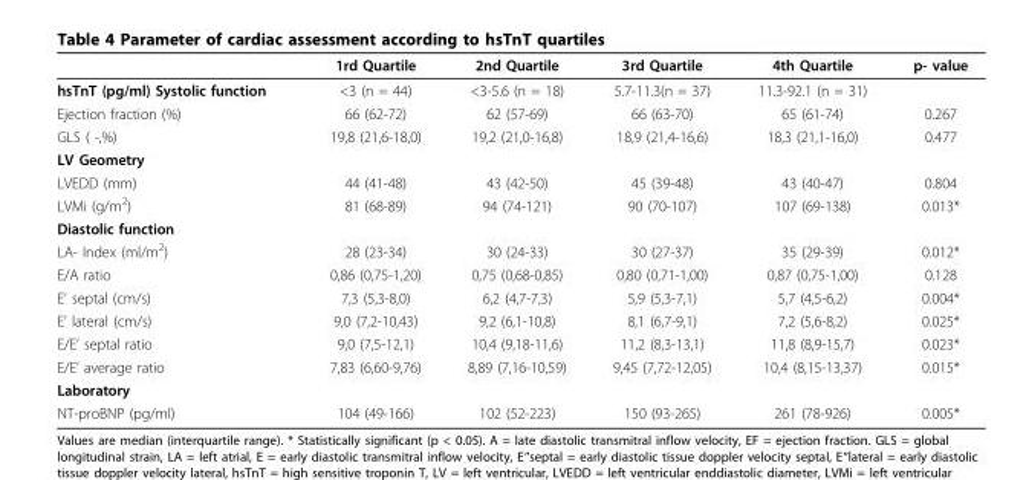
<table><thead><tr><td></td><td>1rd Quartile</td><td>2nd Quartile</td><td>3rd Quartile</td><td>4th Quartile</td><td>p- value</td></tr></thead><tbody><tr><td>hsTnT (pg/ml) Systolic function</td><td>&lt;3 (n = 44)</td><td>&lt;3-5.6 (n = 18)</td><td>5.7-11.3(n = 37)</td><td>11.3-92.1 (n = 31)</td><td></td></tr><tr><td>Ejection fraction (%)</td><td>66 (62-72)</td><td>62 (57-69)</td><td>66 (63-70)</td><td>65 (61-74)</td><td>0.267</td></tr><tr><td>GLS ( -,%)</td><td>19,8 (21,6-18,0)</td><td>19,2 (21,0-16,8)</td><td>18,9 (21,4-16,6)</td><td>18,3 (21,1-16,0)</td><td>0.477</td></tr><tr><td colspan="6">LV Geometry</td></tr><tr><td>LVEDD (mm)</td><td>44 (41-48)</td><td>43 (42-50)</td><td>45 (39-48)</td><td>43 (40-47)</td><td>0.804</td></tr><tr><td>LVMi (g/m<sup>2</sup>)</td><td>81 (68-89)</td><td>94 (74-121)</td><td>90 (70-107)</td><td>107 (69-138)</td><td>0.013*</td></tr><tr><td colspan="6">Diastolic function</td></tr><tr><td>LA- Index (ml/m<sup>2</sup>)</td><td>28 (23-34)</td><td>30 (24-33)</td><td>30 (27-37)</td><td>35 (29-39)</td><td>0.012*</td></tr><tr><td>E/A ratio</td><td>0,86 (0,75-1,20)</td><td>0,75 (0,68-0,85)</td><td>0,80 (0,71-1,00)</td><td>0,87 (0,75-1,00)</td><td>0.128</td></tr><tr><td>E’ septal (cm/s)</td><td>7,3 (5,3-8,0)</td><td>6,2 (4,7-7,3)</td><td>5,9 (5,3-7,1)</td><td>5,7 (4,5-6,2)</td><td>0.004*</td></tr><tr><td>E’ lateral (cm/s)</td><td>9,0 (7,2-10,43)</td><td>9,2 (6,1-10,8)</td><td>8,1 (6,7-9,1)</td><td>7,2 (5,6-8,2)</td><td>0.025*</td></tr><tr><td>E/E’ septal ratio</td><td>9,0 (7,5-12,1)</td><td>10,4 (9,18-11,6)</td><td>11,2 (8,3-13,1)</td><td>11,8 (8,9-15,7)</td><td>0.023*</td></tr><tr><td>E/E’ average ratio</td><td>7,83 (6,60-9,76)</td><td>8,89 (7,16-10,59)</td><td>9,45 (7,72-12,05)</td><td>10,4 (8,15-13,37)</td><td>0.015*</td></tr><tr><td colspan="6">Laboratory</td></tr><tr><td>NT-proBNP (pg/ml)</td><td>104 (49-166)</td><td>102 (52-223)</td><td>150 (93-265)</td><td>261 (78-926)</td><td>0.005*</td></tr></tbody></table>